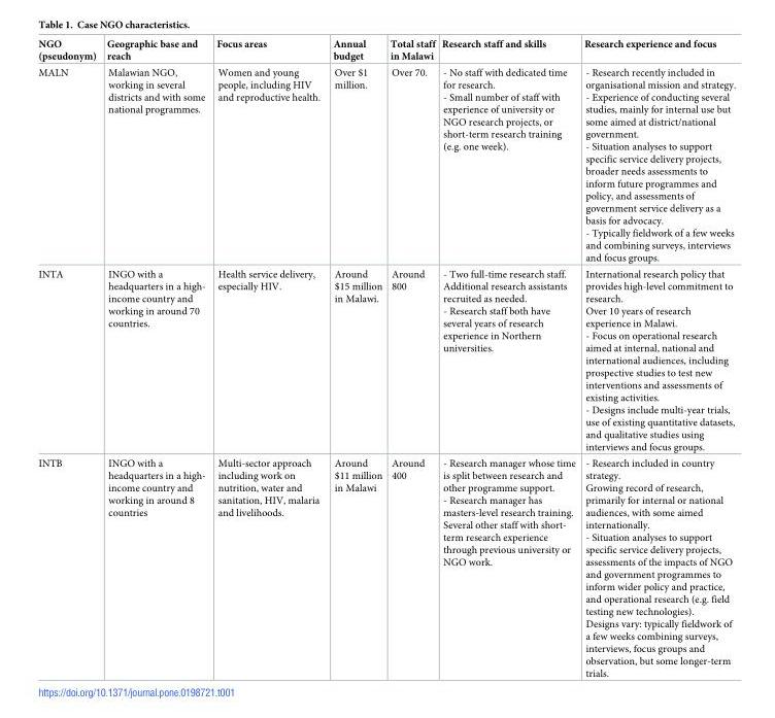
<table><thead><tr><td>NGO (pseudonym)</td><td>Geographic base and reach</td><td>Focus areas</td><td>Annual budget</td><td>Total staff in Malawi</td><td>Research staff and skills</td><td>Research experience and focus</td></tr></thead><tbody><tr><td>MALN</td><td>Malawian NGO, working in several districts and with some national programmes.</td><td>Women and young people, including HIV and reproductive health.</td><td>Over $1 million.</td><td>Over 70.</td><td>- No staff with dedicated time for research. - Small number of staff with experience of university or NGO research projects, or short-term research training (e.g. one week).</td><td>- Research recently included in organisational mission and strategy. - Experience of conducting several studies, mainly for internal use but some aimed at district/national government. - Situation analyses to support specific service delivery projects, broader needs assessments to inform future programmes and policy, and assessments of government service delivery as a basis for advocacy. - Typically fieldwork of a few weeks and combining surveys, interviews and focus groups.</td></tr><tr><td>INTA</td><td>INGO with a headquarters in a high- income country and working in around 70 countries.</td><td>Health service delivery, especially HIV.</td><td>Around $15 million in Malawi.</td><td>Around 800</td><td>- Two full-time research staff. Additional research assistants recruited as needed. - Research staff both have several years of research experience in Northern universities.</td><td>International research policy that provides high-level commitment to research. Over 10 years of research experience in Malawi. - Focus on operational research aimed at internal, national and international audiences, including prospective studies to test new interventions and assessments of existing activities. - Designs include multi-year trials, use of existing quantitative datasets, and qualitative studies using interviews and focus groups.</td></tr><tr><td>INTB</td><td>INGO with a headquarters in a high- income country and working in around 8 countries</td><td>Multi-sector approach including work on nutrition, water and sanitation, HIV, malaria and livelihoods.</td><td>Around $11 million in Malawi</td><td>Around 400</td><td>- Research manager whose time is split between research and other programme support. - Research manager has masters-level research training. Several other staff with short- term research experience through previous university or NGO work.</td><td>- Research included in country strategy. Growing record of research, primarily for internal or national audiences, with some aimed internationally. - Situation analyses to support specific service delivery projects, assessments of the impacts of NGO and government programmes to inform wider policy and practice, and operational research (e.g. field testing new technologies). Designs vary: typically fieldwork of a few weeks combining surveys, interviews, focus groups and observation, but some longer-term trials.</td></tr></tbody></table>